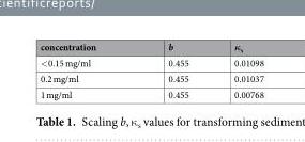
<table><thead><tr><td>concentration</td><td>b</td><td>κ<sub>s</sub></td></tr></thead><tbody><tr><td>&lt;0.15 mg/ml</td><td>0.455</td><td>0.01098</td></tr><tr><td>0.2 mg/ml</td><td>0.455</td><td>0.01037</td></tr><tr><td>1 mg/ml</td><td>0.455</td><td>0.00768</td></tr></tbody></table>